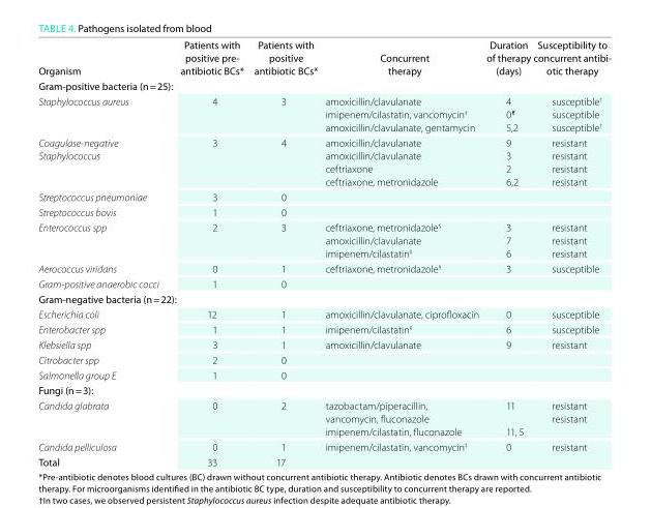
<table><thead><tr><td>Organism</td><td>Patients with positive pre- antibiotic BCs*</td><td>Patients with positive antibiotic BCs*</td><td>Concurrent therapy</td><td>Duration of therapy (days)</td><td>Susceptibility to concurrent antibi- otic therapy</td></tr></thead><tbody><tr><td colspan="6">Gram-positive bacteria (n = 25):</td></tr><tr><td>Staphylococcus aureus</td><td>4</td><td>3</td><td>amoxicillin/clavulanate imipenem/cilastatin, vancomycin<sup>‡</sup> amoxicillin/clavulanate, gentamycin</td><td>4 0<sup>¶</sup> 5,2</td><td>susceptible<sup>†</sup> susceptible susceptible<sup>†</sup></td></tr><tr><td>Coagulase-negative Staphylococcus</td><td>3</td><td>4</td><td>amoxicillin/clavulanate amoxicillin/clavulanate ceftriaxone ceftriaxone, metronidazole</td><td>9 3 2 6,2</td><td>resistant resistant resistant resistant</td></tr><tr><td>Streptococcus pneumoniae</td><td>3</td><td>0</td><td></td><td></td><td></td></tr><tr><td>Streptococcus bovis</td><td>1</td><td>0</td><td></td><td></td><td></td></tr><tr><td>Enterococcus spp</td><td>2</td><td>3</td><td>ceftriaxone, metronidazole§ amoxicillin/clavulanate imipenem/cilastatinII</td><td>3 7 6</td><td>resistant resistant resistant</td></tr><tr><td>Aerococcus viridans</td><td>0</td><td>1</td><td>ceftriaxone, metronidazole<sup>§</sup></td><td>3</td><td>susceptible</td></tr><tr><td>Gram-positive anaerobic cocci</td><td>1</td><td>0</td><td></td><td></td><td></td></tr><tr><td colspan="6">Gram-negative bacteria (n = 22):</td></tr><tr><td>Escherichia coli</td><td>12</td><td>1</td><td>amoxicillin/clavulanate, ciprofloxacin</td><td>0</td><td>susceptible</td></tr><tr><td>Enterobacter spp</td><td>1</td><td>1</td><td>imipenem/cilastatinII</td><td>6</td><td>susceptible</td></tr><tr><td>Klebsiella spp</td><td>3</td><td>1</td><td>amoxicillin/clavulanate</td><td>9</td><td>resistant</td></tr><tr><td>Citrobacter spp</td><td>2</td><td>0</td><td></td><td></td><td></td></tr><tr><td>Salmonella group E</td><td>1</td><td>0</td><td></td><td></td><td></td></tr><tr><td colspan="6">Fungi (n = 3):</td></tr><tr><td>Candida glabrata</td><td>0</td><td>2</td><td>tazobactam/piperacillin, vancomycin, fluconazole imipenem/cilastatin, fluconazole</td><td>11 11, 5</td><td>resistant resistant</td></tr><tr><td>Candida pelliculosa</td><td>0</td><td>1</td><td>imipenem/cilastatin, vancomycin<sup>‡</sup></td><td>0</td><td>resistant</td></tr><tr><td>Total</td><td>33</td><td>17</td><td></td><td></td><td></td></tr></tbody></table>